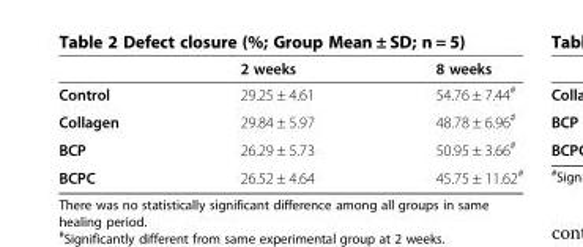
<table><thead><tr><td></td><td>2 weeks</td><td>8 weeks</td></tr></thead><tbody><tr><td>Control</td><td>29.25 ± 4.61</td><td>54.76 ± 7.44<sup>#</sup></td></tr><tr><td>Collagen</td><td>29.84 ± 5.97</td><td>48.78 ± 6.96<sup>#</sup></td></tr><tr><td>BCP</td><td>26.29 ± 5.73</td><td>50.95 ± 3.66<sup>#</sup></td></tr><tr><td>BCPC</td><td>26.52 ± 4.64</td><td>45.75 ± 11.62<sup>#</sup></td></tr></tbody></table>